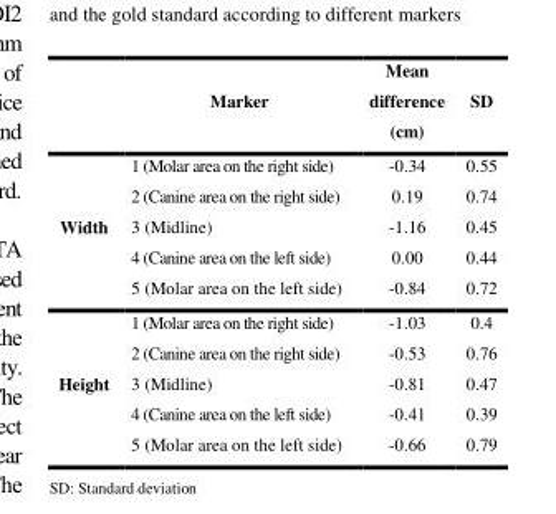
<table><thead><tr><td></td><td>Marker</td><td>Mean difference (cm)</td><td>SD</td></tr></thead><tbody><tr><td rowspan="5">Width</td><td>1 (Molar area on the right side)</td><td>-0.34</td><td>0.55</td></tr><tr><td>2 (Canine area on the right side)</td><td>0.19</td><td>0.74</td></tr><tr><td>3 (Midline)</td><td>-1.16</td><td>0.45</td></tr><tr><td>4 (Canine area on the left side)</td><td>0.00</td><td>0.44</td></tr><tr><td>5 (Molar area on the left side)</td><td>-0.84</td><td>0.72</td></tr><tr><td rowspan="5">Height</td><td>1 (Molar area on the right side)</td><td>-1.03</td><td>0.4</td></tr><tr><td>2 (Canine area on the right side)</td><td>-0.53</td><td>0.76</td></tr><tr><td>3 (Midline)</td><td>-0.81</td><td>0.47</td></tr><tr><td>4 (Canine area on the left side)</td><td>-0.41</td><td>0.39</td></tr><tr><td>5 (Molar area on the left side)</td><td>-0.66</td><td>0.79</td></tr></tbody></table>